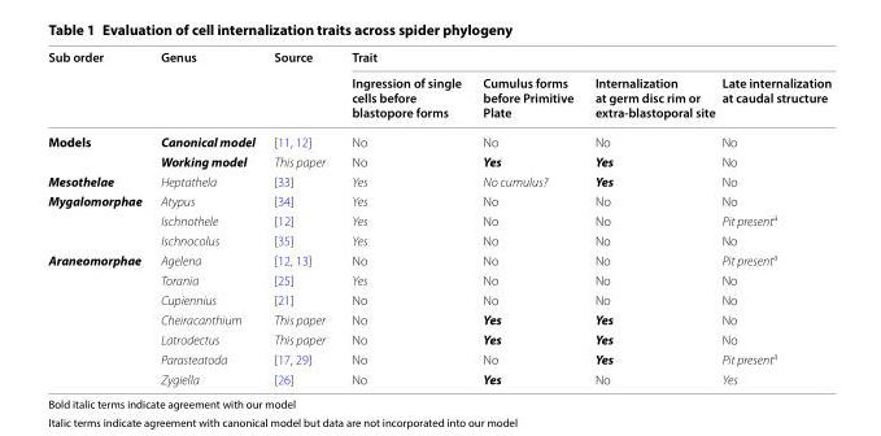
<table><thead><tr><td rowspan="2">Sub order</td><td rowspan="2">Genus</td><td rowspan="2">Source</td><td colspan="4">Trait</td></tr><tr><td>Ingression of single cells before blastopore forms</td><td>Cumulus forms before Primitive Plate</td><td>Internalization at germ disc rim or extra-blastoporal site</td><td>Late internalization at caudal structure</td></tr></thead><tbody><tr><td rowspan="2">Models</td><td>Canonical model</td><td>[11, 12]</td><td>No</td><td>No</td><td>No</td><td>No</td></tr><tr><td>Working model</td><td>This paper</td><td>No</td><td>Yes</td><td>Yes</td><td>No</td></tr><tr><td>Mesothelae</td><td>Heptathela</td><td>[33]</td><td>Yes</td><td>No cumulus?</td><td>Yes</td><td>No</td></tr><tr><td rowspan="3">Mygalomorphae</td><td>Atypus</td><td>[34]</td><td>Yes</td><td>No</td><td>No</td><td>No</td></tr><tr><td>Ischnothele</td><td>[12]</td><td>Yes</td><td>No</td><td>No</td><td>Pit present<sup>a</sup></td></tr><tr><td>Ischnocolus</td><td>[35]</td><td>Yes</td><td>No</td><td>No</td><td>No</td></tr><tr><td rowspan="7">Araneomorphae</td><td>Agelena</td><td>[12, 13]</td><td>No</td><td>No</td><td>No</td><td>Pit present<sup>a</sup></td></tr><tr><td>Torania</td><td>[25]</td><td>Yes</td><td>No</td><td>No</td><td>No</td></tr><tr><td>Cupiennius</td><td>[21]</td><td>No</td><td>No</td><td>No</td><td>No</td></tr><tr><td>Cheiracanthium</td><td>This paper</td><td>No</td><td>Yes</td><td>Yes</td><td>No</td></tr><tr><td>Latrodectus</td><td>This paper</td><td>No</td><td>Yes</td><td>Yes</td><td>No</td></tr><tr><td>Parasteatoda</td><td>[17, 29]</td><td>No</td><td>No</td><td>Yes</td><td>Pit present<sup>a</sup></td></tr><tr><td>Zygiella</td><td>[26]</td><td>No</td><td>Yes</td><td>No</td><td>Yes</td></tr></tbody></table>